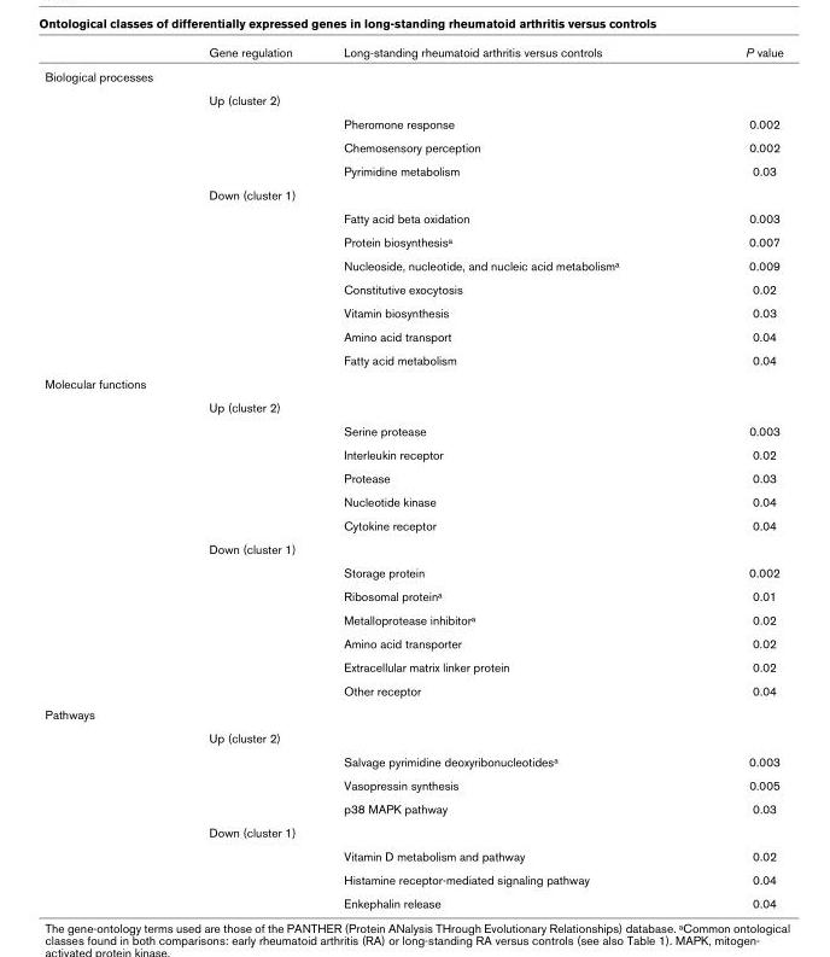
<table><thead><tr><td></td><td>Gene regulation</td><td>Long-standing rheumatoid arthritis versus controls</td><td>P value</td></tr></thead><tbody><tr><td colspan="4">Biological processes</td></tr><tr><td></td><td>Up (cluster 2)</td><td></td><td></td></tr><tr><td></td><td></td><td>Pheromone response</td><td>0.002</td></tr><tr><td></td><td></td><td>Chemosensory perception</td><td>0.002</td></tr><tr><td></td><td></td><td>Pyrimidine metabolism</td><td>0.03</td></tr><tr><td></td><td>Down (cluster 1)</td><td></td><td></td></tr><tr><td></td><td></td><td>Fatty acid beta oxidation</td><td>0.003</td></tr><tr><td></td><td></td><td>Protein biosynthesis<sup>a</sup></td><td>0.007</td></tr><tr><td></td><td></td><td>Nucleoside, nucleotide, and nucleic acid metabolism<sup>a</sup></td><td>0.009</td></tr><tr><td></td><td></td><td>Constitutive exocytosis</td><td>0.02</td></tr><tr><td></td><td></td><td>Vitamin biosynthesis</td><td>0.03</td></tr><tr><td></td><td></td><td>Amino acid transport</td><td>0.04</td></tr><tr><td></td><td></td><td>Fatty acid metabolism</td><td>0.04</td></tr><tr><td colspan="4">Molecular functions</td></tr><tr><td></td><td>Up (cluster 2)</td><td></td><td></td></tr><tr><td></td><td></td><td>Serine protease</td><td>0.003</td></tr><tr><td></td><td></td><td>Interleukin receptor</td><td>0.02</td></tr><tr><td></td><td></td><td>Protease</td><td>0.03</td></tr><tr><td></td><td></td><td>Nucleotide kinase</td><td>0.04</td></tr><tr><td></td><td></td><td>Cytokine receptor</td><td>0.04</td></tr><tr><td></td><td>Down (cluster 1)</td><td></td><td></td></tr><tr><td></td><td></td><td>Storage protein</td><td>0.002</td></tr><tr><td></td><td></td><td>Ribosomal protein<sup>a</sup></td><td>0.01</td></tr><tr><td></td><td></td><td>Metalloprotease inhibitor<sup>a</sup></td><td>0.02</td></tr><tr><td></td><td></td><td>Amino acid transporter</td><td>0.02</td></tr><tr><td></td><td></td><td>Extracellular matrix linker protein</td><td>0.02</td></tr><tr><td></td><td></td><td>Other receptor</td><td>0.04</td></tr><tr><td colspan="4">Pathways</td></tr><tr><td></td><td>Up (cluster 2)</td><td></td><td></td></tr><tr><td></td><td></td><td>Salvage pyrimidine deoxyribonucleotides<sup>a</sup></td><td>0.003</td></tr><tr><td></td><td></td><td>Vasopressin synthesis</td><td>0.005</td></tr><tr><td></td><td></td><td>p38 MAPK pathway</td><td>0.03</td></tr><tr><td></td><td>Down (cluster 1)</td><td></td><td></td></tr><tr><td></td><td></td><td>Vitamin D metabolism and pathway</td><td>0.02</td></tr><tr><td></td><td></td><td>Histamine receptor-mediated signaling pathway</td><td>0.04</td></tr><tr><td></td><td></td><td>Enkephalin release</td><td>0.04</td></tr></tbody></table>